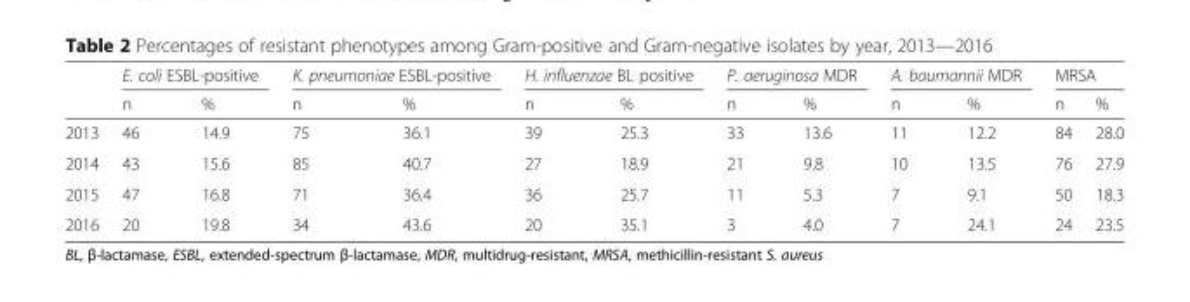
<table><thead><tr><td rowspan="2"></td><td colspan="2">E. coli ESBL-positive</td><td colspan="2">K. pneumoniae ESBL-positive</td><td colspan="2">H. influenzae BL positive</td><td colspan="2">P. aeruginosa MDR</td><td colspan="2">A. baumannii MDR</td><td colspan="2">MRSA</td></tr><tr><td>n</td><td>%</td><td>n</td><td>%</td><td>n</td><td>%</td><td>n</td><td>%</td><td>n</td><td>%</td><td>n</td><td>%</td></tr></thead><tbody><tr><td>2013</td><td>46</td><td>14.9</td><td>75</td><td>36.1</td><td>39</td><td>25.3</td><td>33</td><td>13.6</td><td>11</td><td>12.2</td><td>84</td><td>28.0</td></tr><tr><td>2014</td><td>43</td><td>15.6</td><td>85</td><td>40.7</td><td>27</td><td>18.9</td><td>21</td><td>9.8</td><td>10</td><td>13.5</td><td>76</td><td>27.9</td></tr><tr><td>2015</td><td>47</td><td>16.8</td><td>71</td><td>36.4</td><td>36</td><td>25.7</td><td>11</td><td>5.3</td><td>7</td><td>9.1</td><td>50</td><td>18.3</td></tr><tr><td>2016</td><td>20</td><td>19.8</td><td>34</td><td>43.6</td><td>20</td><td>35.1</td><td>3</td><td>4.0</td><td>7</td><td>24.1</td><td>24</td><td>23.5</td></tr></tbody></table>